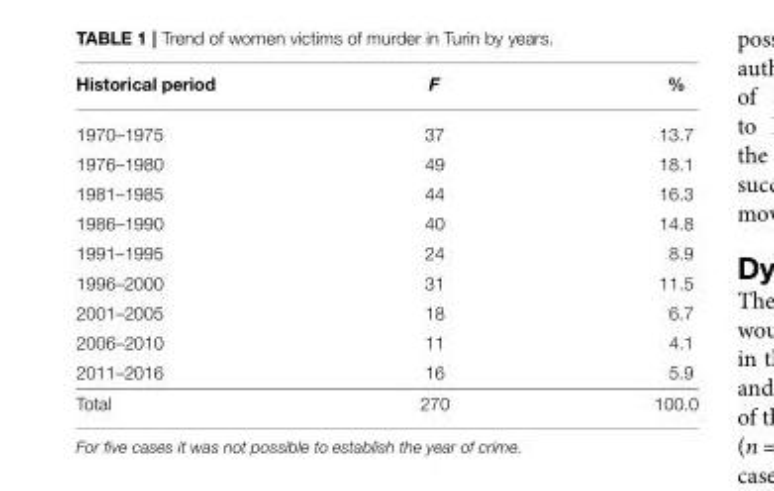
<table><thead><tr><td>Historical period</td><td>F</td><td>%</td></tr></thead><tbody><tr><td>1970–1975</td><td>37</td><td>13.7</td></tr><tr><td>1976–1980</td><td>49</td><td>18.1</td></tr><tr><td>1981–1985</td><td>44</td><td>16.3</td></tr><tr><td>1986–1990</td><td>40</td><td>14.8</td></tr><tr><td>1991–1995</td><td>24</td><td>8.9</td></tr><tr><td>1996–2000</td><td>31</td><td>11.5</td></tr><tr><td>2001–2005</td><td>18</td><td>6.7</td></tr><tr><td>2006–2010</td><td>11</td><td>4.1</td></tr><tr><td>2011–2016</td><td>16</td><td>5.9</td></tr><tr><td>Total</td><td>270</td><td>100.0</td></tr></tbody></table>